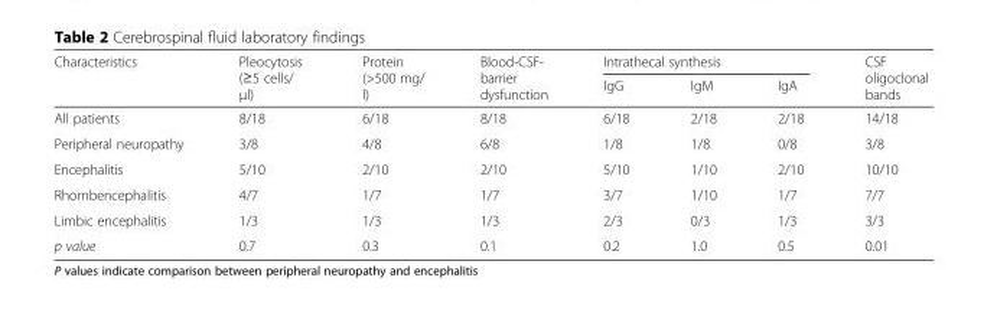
<table><thead><tr><td rowspan="2">Characteristics</td><td rowspan="2">Pleocytosis (≥5 cells/ μl)</td><td rowspan="2">Protein (&gt;500 mg/ l)</td><td rowspan="2">Blood-CSF- barrier dysfunction</td><td colspan="3">Intrathecal synthesis</td><td rowspan="2">CSF oligoclonal bands</td></tr><tr><td>IgG</td><td>IgM</td><td>IgA</td></tr></thead><tbody><tr><td>All patients</td><td>8/18</td><td>6/18</td><td>8/18</td><td>6/18</td><td>2/18</td><td>2/18</td><td>14/18</td></tr><tr><td>Peripheral neuropathy</td><td>3/8</td><td>4/8</td><td>6/8</td><td>1/8</td><td>1/8</td><td>0/8</td><td>3/8</td></tr><tr><td>Encephalitis</td><td>5/10</td><td>2/10</td><td>2/10</td><td>5/10</td><td>1/10</td><td>2/10</td><td>10/10</td></tr><tr><td>Rhombencephalitis</td><td>4/7</td><td>1/7</td><td>1/7</td><td>3/7</td><td>1/10</td><td>1/7</td><td>7/7</td></tr><tr><td>Limbic encephalitis</td><td>1/3</td><td>1/3</td><td>1/3</td><td>2/3</td><td>0/3</td><td>1/3</td><td>3/3</td></tr><tr><td>p value</td><td>0.7</td><td>0.3</td><td>0.1</td><td>0.2</td><td>1.0</td><td>0.5</td><td>0.01</td></tr></tbody></table>